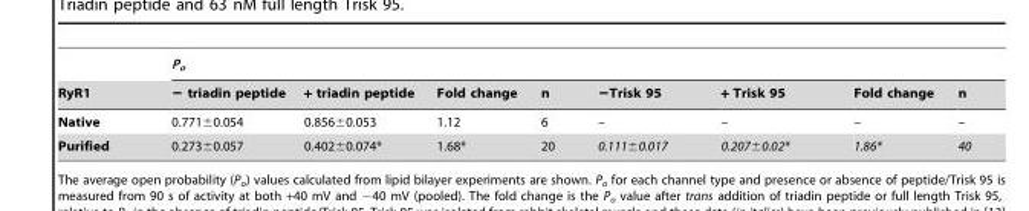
<table><thead><tr><td rowspan="2">RyR1</td><td colspan="8">P<sub>o</sub></td></tr><tr><td>− triadin peptide</td><td>+ triadin peptide</td><td>Fold change</td><td>n</td><td>−Trisk 95</td><td>+ Trisk 95</td><td>Fold change</td><td>n</td></tr></thead><tbody><tr><td>Native</td><td>0.771±0.054</td><td>0.856±0.053</td><td>1.12</td><td>6</td><td>–</td><td>–</td><td>–</td><td>–</td></tr><tr><td>Purified</td><td>0.273±0.057</td><td>0.402±0.074*</td><td>1.68*</td><td>20</td><td>0.111±0.017</td><td>0.207±0.02*</td><td>1.86*</td><td>40</td></tr></tbody></table>